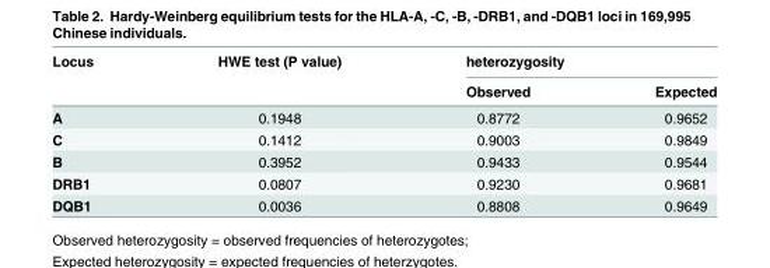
<table><thead><tr><td rowspan="2">Locus</td><td rowspan="2">HWE test (P value)</td><td colspan="2">heterozygosity</td></tr><tr><td>Observed</td><td>Expected</td></tr></thead><tbody><tr><td>A</td><td>0.1948</td><td>0.8772</td><td>0.9652</td></tr><tr><td>C</td><td>0.1412</td><td>0.9003</td><td>0.9849</td></tr><tr><td>B</td><td>0.3952</td><td>0.9433</td><td>0.9544</td></tr><tr><td>DRB1</td><td>0.0807</td><td>0.9230</td><td>0.9681</td></tr><tr><td>DQB1</td><td>0.0036</td><td>0.8808</td><td>0.9649</td></tr></tbody></table>